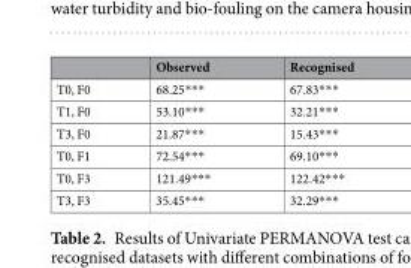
<table><thead><tr><td></td><td>Observed</td><td>Recognised</td></tr></thead><tbody><tr><td>T0, F0</td><td>68.25***</td><td>67.83***</td></tr><tr><td>T1, F0</td><td>53.10***</td><td>32.21***</td></tr><tr><td>T3, F0</td><td>21.87***</td><td>15.43***</td></tr><tr><td>T0, F1</td><td>72.54***</td><td>69.10***</td></tr><tr><td>T0, F3</td><td>121.49***</td><td>122.42***</td></tr><tr><td>T3, F3</td><td>35.45***</td><td>32.29***</td></tr></tbody></table>